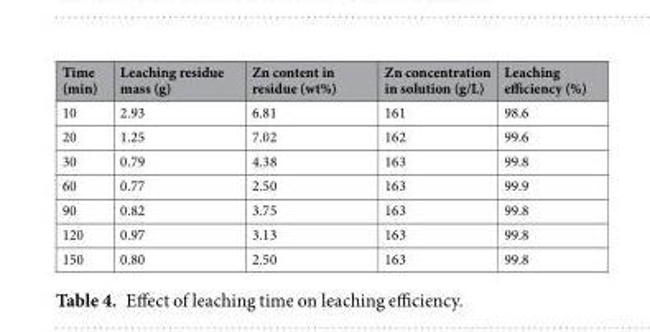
<table><thead><tr><td>Time (min)</td><td>Leaching residue mass (g)</td><td>Zn content in residue (wt%)</td><td>Zn concentration in solution (g/L)</td><td>Leaching efficiency (%)</td></tr></thead><tbody><tr><td>10</td><td>2.93</td><td>6.81</td><td>161</td><td>98.6</td></tr><tr><td>20</td><td>1.25</td><td>7.02</td><td>162</td><td>99.6</td></tr><tr><td>30</td><td>0.79</td><td>4.38</td><td>163</td><td>99.8</td></tr><tr><td>60</td><td>0.77</td><td>2.50</td><td>163</td><td>99.9</td></tr><tr><td>90</td><td>0.82</td><td>3.75</td><td>163</td><td>99.8</td></tr><tr><td>120</td><td>0.97</td><td>3.13</td><td>163</td><td>99.8</td></tr><tr><td>150</td><td>0.80</td><td>2.50</td><td>163</td><td>99.8</td></tr></tbody></table>